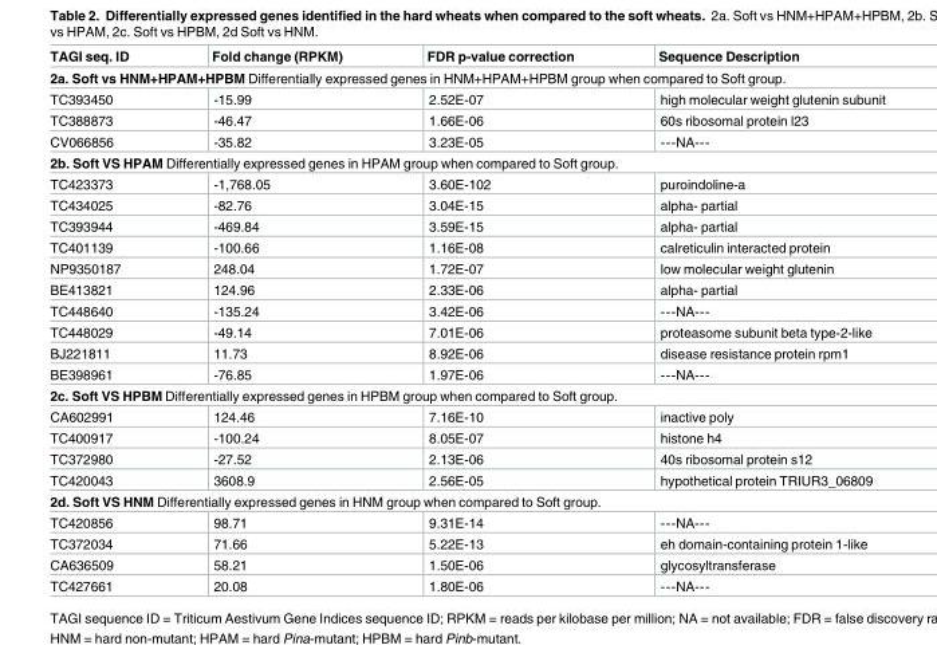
<table><thead><tr><td>TAGI seq. ID</td><td>Fold change (RPKM)</td><td>FDR p-value correction</td><td>Sequence Description</td></tr></thead><tbody><tr><td colspan="4">2a. Soft vs HNM+HPAM+HPBM Differentially expressed genes in HNM+HPAM+HPBM group when compared to Soft group.</td></tr><tr><td>TC393450</td><td>-15.99</td><td>2.52E-07</td><td>high molecular weight glutenin subunit</td></tr><tr><td>TC388873</td><td>-46.47</td><td>1.66E-06</td><td>60s ribosomal protein l23</td></tr><tr><td>CV066856</td><td>-35.82</td><td>3.23E-05</td><td>---NA---</td></tr><tr><td colspan="4">2b. Soft VS HPAM Differentially expressed genes in HPAM group when compared to Soft group.</td></tr><tr><td>TC423373</td><td>-1,768.05</td><td>3.60E-102</td><td>puroindoline-a</td></tr><tr><td>TC434025</td><td>-82.76</td><td>3.04E-15</td><td>alpha- partial</td></tr><tr><td>TC393944</td><td>-469.84</td><td>3.59E-15</td><td>alpha- partial</td></tr><tr><td>TC401139</td><td>-100.66</td><td>1.16E-08</td><td>calreticulin interacted protein</td></tr><tr><td>NP9350187</td><td>248.04</td><td>1.72E-07</td><td>low molecular weight glutenin</td></tr><tr><td>BE413821</td><td>124.96</td><td>2.33E-06</td><td>alpha- partial</td></tr><tr><td>TC448640</td><td>-135.24</td><td>3.42E-06</td><td>---NA---</td></tr><tr><td>TC448029</td><td>-49.14</td><td>7.01E-06</td><td>proteasome subunit beta type-2-like</td></tr><tr><td>BJ221811</td><td>11.73</td><td>8.92E-06</td><td>disease resistance protein rpm1</td></tr><tr><td>BE398961</td><td>-76.85</td><td>1.97E-06</td><td>---NA---</td></tr><tr><td colspan="4">2c. Soft VS HPBM Differentially expressed genes in HPBM group when compared to Soft group.</td></tr><tr><td>CA602991</td><td>124.46</td><td>7.16E-10</td><td>inactive poly</td></tr><tr><td>TC400917</td><td>-100.24</td><td>8.05E-07</td><td>histone h4</td></tr><tr><td>TC372980</td><td>-27.52</td><td>2.13E-06</td><td>40s ribosomal protein s12</td></tr><tr><td>TC420043</td><td>3608.9</td><td>2.56E-05</td><td>hypothetical protein TRIUR3_06809</td></tr><tr><td colspan="4">2d. Soft VS HNM Differentially expressed genes in HNM group when compared to Soft group.</td></tr><tr><td>TC420856</td><td>98.71</td><td>9.31E-14</td><td>---NA---</td></tr><tr><td>TC372034</td><td>71.66</td><td>5.22E-13</td><td>eh domain-containing protein 1-like</td></tr><tr><td>CA636509</td><td>58.21</td><td>1.50E-06</td><td>glycosyltransferase</td></tr><tr><td>TC427661</td><td>20.08</td><td>1.80E-06</td><td>---NA---</td></tr></tbody></table>